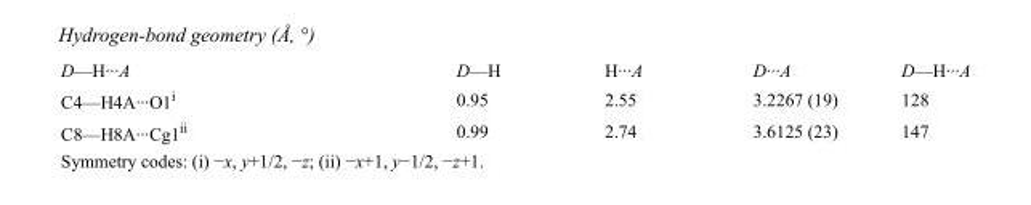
<table><tbody><tr><td>D—H···A</td><td>D—H</td><td>H···A</td><td>D···A</td><td>D—H···A</td></tr><tr><td>C4—H4A···O1<sup>i</sup></td><td>0.95</td><td>2.55</td><td>3.2267 (19)</td><td>128</td></tr><tr><td>C8—H8A···Cg1<sup>ii</sup></td><td>0.99</td><td>2.74</td><td>3.6125 (23)</td><td>147</td></tr></tbody></table>